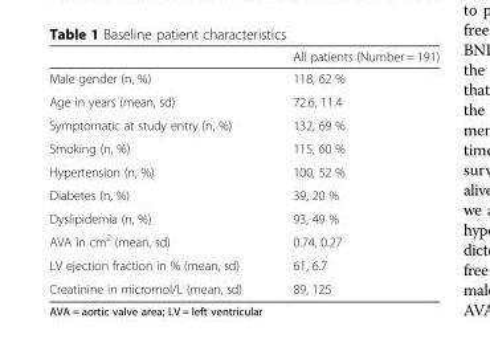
<table><thead><tr><td></td><td>All patients (Number = 191)</td></tr></thead><tbody><tr><td>Male gender (n, %)</td><td>118, 62 %</td></tr><tr><td>Age in years (mean, sd)</td><td>72.6, 11.4</td></tr><tr><td>Symptomatic at study entry (n, %)</td><td>132, 69 %</td></tr><tr><td>Smoking (n, %)</td><td>115, 60 %</td></tr><tr><td>Hypertension (n, %)</td><td>100, 52 %</td></tr><tr><td>Diabetes (n, %)</td><td>39, 20 %</td></tr><tr><td>Dyslipidemia (n, %)</td><td>93, 49 %</td></tr><tr><td>AVA in cm<sup>2</sup> (mean, sd)</td><td>0.74, 0.27</td></tr><tr><td>LV ejection fraction in % (mean, sd)</td><td>61, 6.7</td></tr><tr><td>Creatinine in micromol/L (mean, sd)</td><td>89, 125</td></tr></tbody></table>